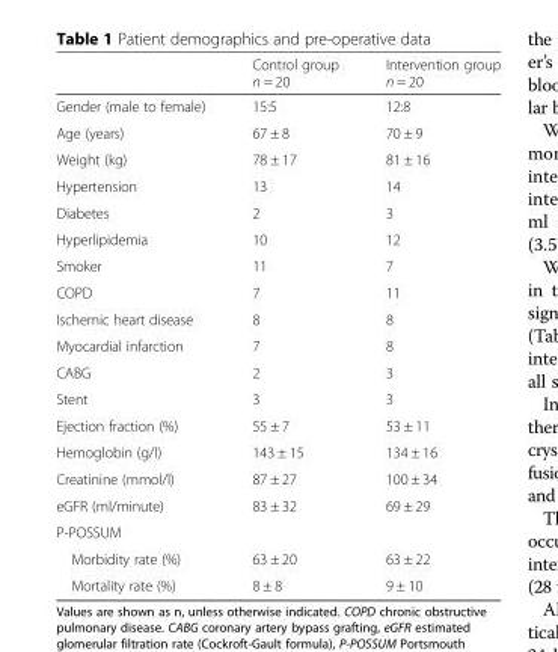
<table><thead><tr><td></td><td>Control group n = 20</td><td>Intervention group n = 20</td></tr></thead><tbody><tr><td>Gender (male to female)</td><td>15:5</td><td>12:8</td></tr><tr><td>Age (years)</td><td>67 ± 8</td><td>70 ± 9</td></tr><tr><td>Weight (kg)</td><td>78 ± 17</td><td>81 ± 16</td></tr><tr><td>Hypertension</td><td>13</td><td>14</td></tr><tr><td>Diabetes</td><td>2</td><td>3</td></tr><tr><td>Hyperlipidemia</td><td>10</td><td>12</td></tr><tr><td>Smoker</td><td>11</td><td>7</td></tr><tr><td>COPD</td><td>7</td><td>11</td></tr><tr><td>Ischemic heart disease</td><td>8</td><td>8</td></tr><tr><td>Myocardial infarction</td><td>7</td><td>8</td></tr><tr><td>CABG</td><td>2</td><td>3</td></tr><tr><td>Stent</td><td>3</td><td>3</td></tr><tr><td>Ejection fraction (%)</td><td>55 ± 7</td><td>53 ± 11</td></tr><tr><td>Hemoglobin (g/l)</td><td>143 ± 15</td><td>134 ± 16</td></tr><tr><td>Creatinine (mmol/l)</td><td>87 ± 27</td><td>100 ± 34</td></tr><tr><td>eGFR (ml/minute)</td><td>83 ± 32</td><td>69 ± 29</td></tr><tr><td colspan="3">P-POSSUM</td></tr><tr><td>Morbidity rate (%)</td><td>63 ± 20</td><td>63 ± 22</td></tr><tr><td>Mortality rate (%)</td><td>8 ± 8</td><td>9 ± 10</td></tr></tbody></table>